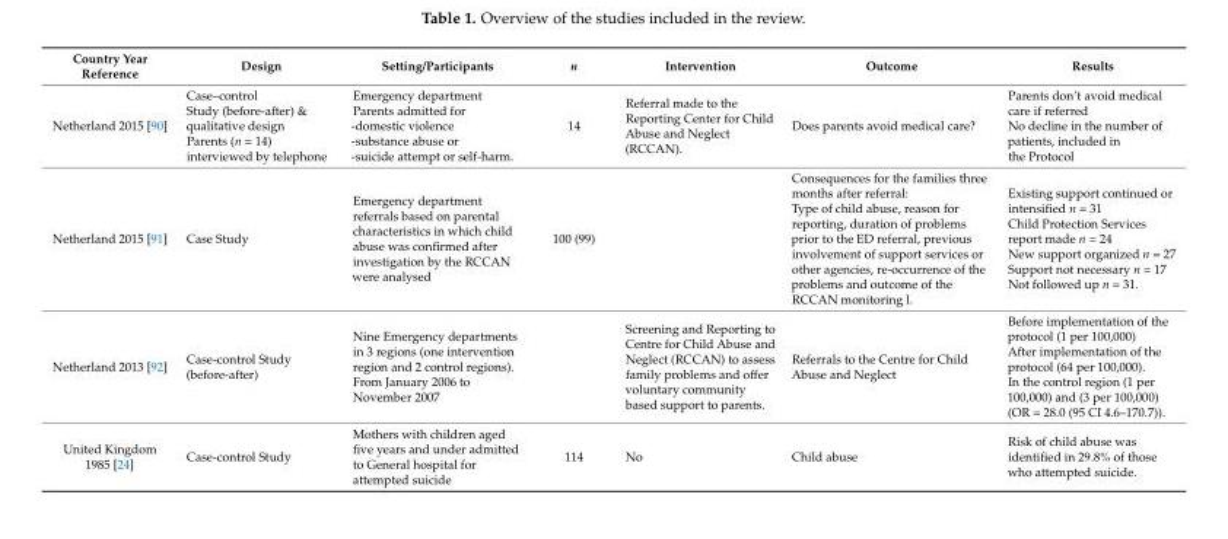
<table><thead><tr><td>Country Year Reference</td><td>Design</td><td>Setting/Participants</td><td>n</td><td>Intervention</td><td>Outcome</td><td>Results</td></tr></thead><tbody><tr><td>Netherland 2015 [90]</td><td>Case–control Study (before-after) &amp; qualitative design Parents (n = 14) interviewed by telephone</td><td>Emergency department Parents admitted for -domestic violence -substance abuse or -suicide attempt or self-harm.</td><td>14</td><td>Referral made to the Reporting Center for Child Abuse and Neglect (RCCAN).</td><td>Does parents avoid medical care?</td><td>Parents don’t avoid medical care if referred No decline in the number of patients, included in the Protocol</td></tr><tr><td>Netherland 2015 [91]</td><td>Case Study</td><td>Emergency department referrals based on parental characteristics in which child abuse was confirmed after investigation by the RCCAN were analysed</td><td>100 (99)</td><td></td><td>Consequences for the families three months after referral: Type of child abuse, reason for reporting, duration of problems prior to the ED referral, previous involvement of support services or other agencies, re-occurrence of the problems and outcome of the RCCAN monitoring l.</td><td>Existing support continued or intensified n = 31 Child Protection Services report made n = 24 New support organized n = 27 Support not necessary n = 17 Not followed up n = 31.</td></tr><tr><td>Netherland 2013 [92]</td><td>Case-control Study (before-after)</td><td>Nine Emergency departments in 3 regions (one intervention region and 2 control regions). From January 2006 to November 2007</td><td></td><td>Screening and Reporting to Centre for Child Abuse and Neglect (RCCAN) to assess family problems and offer voluntary community based support to parents.</td><td>Referrals to the Centre for Child Abuse and Neglect</td><td>Before implementation of the protocol (1 per 100,000) After implementation of the protocol (64 per 100,000). In the control region (1 per 100,000) and (3 per 100,000) (OR = 28.0 (95 CI 4.6–170.7)).</td></tr><tr><td>United Kingdom 1985 [24]</td><td>Case-control Study</td><td>Mothers with children aged five years and under admitted to General hospital for attempted suicide</td><td>114</td><td>No</td><td>Child abuse</td><td>Risk of child abuse was identified in 29.8% of those who attempted suicide.</td></tr></tbody></table>